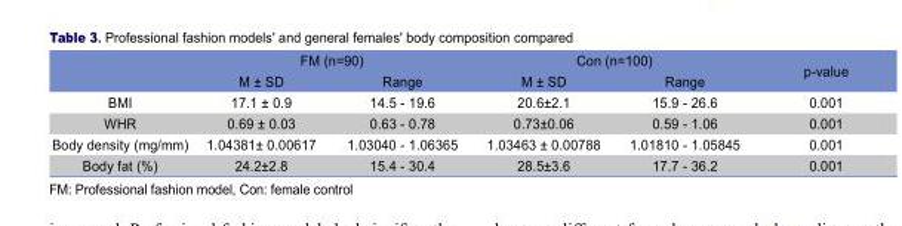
<table><thead><tr><td rowspan="2"></td><td colspan="2">FM (n=90)</td><td colspan="2">Con (n=100)</td><td rowspan="2">p-value</td></tr><tr><td>M ± SD</td><td>Range</td><td>M ± SD</td><td>Range</td></tr></thead><tbody><tr><td>BMI</td><td>17.1 ± 0.9</td><td>14.5 - 19.6</td><td>20.6±2.1</td><td>15.9 - 26.6</td><td>0.001</td></tr><tr><td>WHR</td><td>0.69 ± 0.03</td><td>0.63 - 0.78</td><td>0.73±0.06</td><td>0.59 - 1.06</td><td>0.001</td></tr><tr><td>Body density (mg/mm)</td><td>1.04381± 0.00617</td><td>1.03040 - 1.06365</td><td>1.03463 ± 0.00788</td><td>1.01810 - 1.05845</td><td>0.001</td></tr><tr><td>Body fat (%)</td><td>24.2±2.8</td><td>15.4 - 30.4</td><td>28.5±3.6</td><td>17.7 - 36.2</td><td>0.001</td></tr></tbody></table>